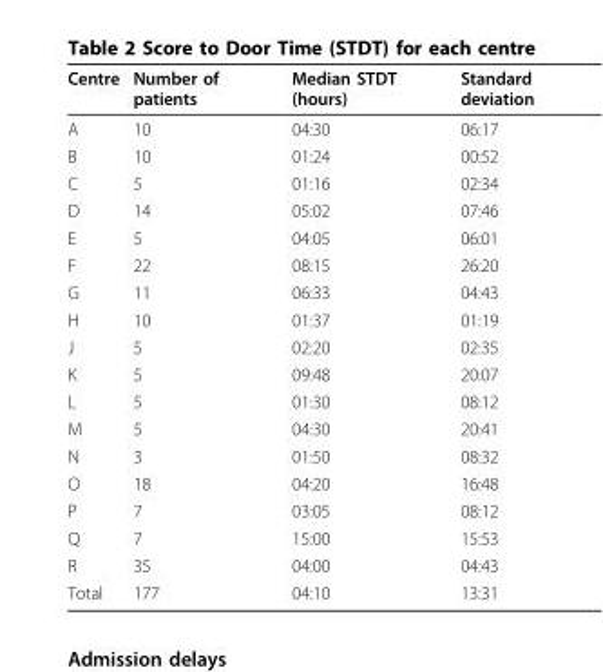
<table><thead><tr><td>Centre</td><td>Number of patients</td><td>Median STDT (hours)</td><td>Standard deviation</td></tr></thead><tbody><tr><td>A</td><td>10</td><td>04:30</td><td>06:17</td></tr><tr><td>B</td><td>10</td><td>01:24</td><td>00:52</td></tr><tr><td>C</td><td>5</td><td>01:16</td><td>02:34</td></tr><tr><td>D</td><td>14</td><td>05:02</td><td>07:46</td></tr><tr><td>E</td><td>5</td><td>04:05</td><td>06:01</td></tr><tr><td>F</td><td>22</td><td>08:15</td><td>26:20</td></tr><tr><td>G</td><td>11</td><td>06:33</td><td>04:43</td></tr><tr><td>H</td><td>10</td><td>01:37</td><td>01:19</td></tr><tr><td>J</td><td>5</td><td>02:20</td><td>02:35</td></tr><tr><td>K</td><td>5</td><td>09:48</td><td>20:07</td></tr><tr><td>L</td><td>5</td><td>01:30</td><td>08:12</td></tr><tr><td>M</td><td>5</td><td>04:30</td><td>20:41</td></tr><tr><td>N</td><td>3</td><td>01:50</td><td>08:32</td></tr><tr><td>O</td><td>18</td><td>04:20</td><td>16:48</td></tr><tr><td>P</td><td>7</td><td>03:05</td><td>08:12</td></tr><tr><td>Q</td><td>7</td><td>15:00</td><td>15:53</td></tr><tr><td>R</td><td>35</td><td>04:00</td><td>04:43</td></tr><tr><td>Total</td><td>177</td><td>04:10</td><td>13:31</td></tr></tbody></table>